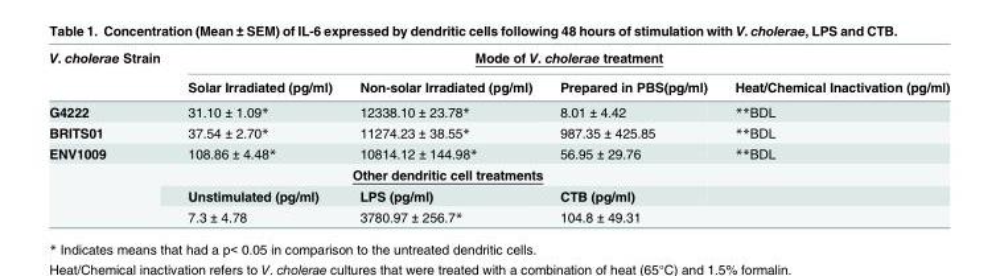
<table><thead><tr><td rowspan="2">V. cholerae Strain</td><td colspan="4">Mode of V. cholerae treatment</td></tr><tr><td>Solar Irradiated (pg/ml)</td><td>Non-solar Irradiated (pg/ml)</td><td>Prepared in PBS(pg/ml)</td><td>Heat/Chemical Inactivation (pg/ml)</td></tr></thead><tbody><tr><td>G4222</td><td>31.10 ± 1.09*</td><td>12338.10 ± 23.78*</td><td>8.01 ± 4.42</td><td>**BDL</td></tr><tr><td>BRITS01</td><td>37.54 ± 2.70*</td><td>11274.23 ± 38.55*</td><td>987.35 ± 425.85</td><td>**BDL</td></tr><tr><td rowspan="4">ENV1009</td><td>108.86 ± 4.48*</td><td>10814.12 ± 144.98*</td><td>56.95 ± 29.76</td><td>**BDL</td></tr><tr><td colspan="3">Other dendritic cell treatments</td><td></td></tr><tr><td>Unstimulated (pg/ml)</td><td>LPS (pg/ml)</td><td>CTB (pg/ml)</td><td></td></tr><tr><td>7.3 ± 4.78</td><td>3780.97 ± 256.7*</td><td>104.8 ± 49.31</td><td></td></tr></tbody></table>